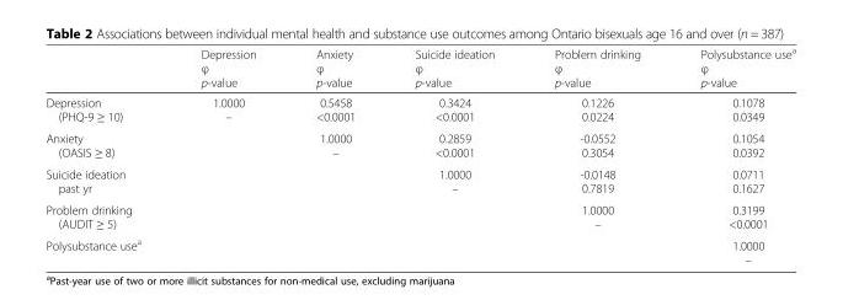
<table><thead><tr><td></td><td>Depression φ p-value</td><td>Anxiety φ p-value</td><td>Suicide ideation φ p-value</td><td>Problem drinking φ p-value</td><td>Polysubstance use<sup>a</sup> φ p-value</td></tr></thead><tbody><tr><td>Depression (PHQ-9 ≥ 10)</td><td>1.0000 –</td><td>0.5458 &lt;0.0001</td><td>0.3424 &lt;0.0001</td><td>0.1226 0.0224</td><td>0.1078 0.0349</td></tr><tr><td>Anxiety (OASIS ≥ 8)</td><td></td><td>1.0000 –</td><td>0.2859 &lt;0.0001</td><td>-0.0552 0.3054</td><td>0.1054 0.0392</td></tr><tr><td>Suicide ideation past yr</td><td></td><td></td><td>1.0000 –</td><td>-0.0148 0.7819</td><td>0.0711 0.1627</td></tr><tr><td>Problem drinking (AUDIT ≥ 5)</td><td></td><td></td><td></td><td>1.0000 –</td><td>0.3199 &lt;0.0001</td></tr><tr><td>Polysubstance use<sup>a</sup></td><td></td><td></td><td></td><td></td><td>1.0000</td></tr></tbody></table>